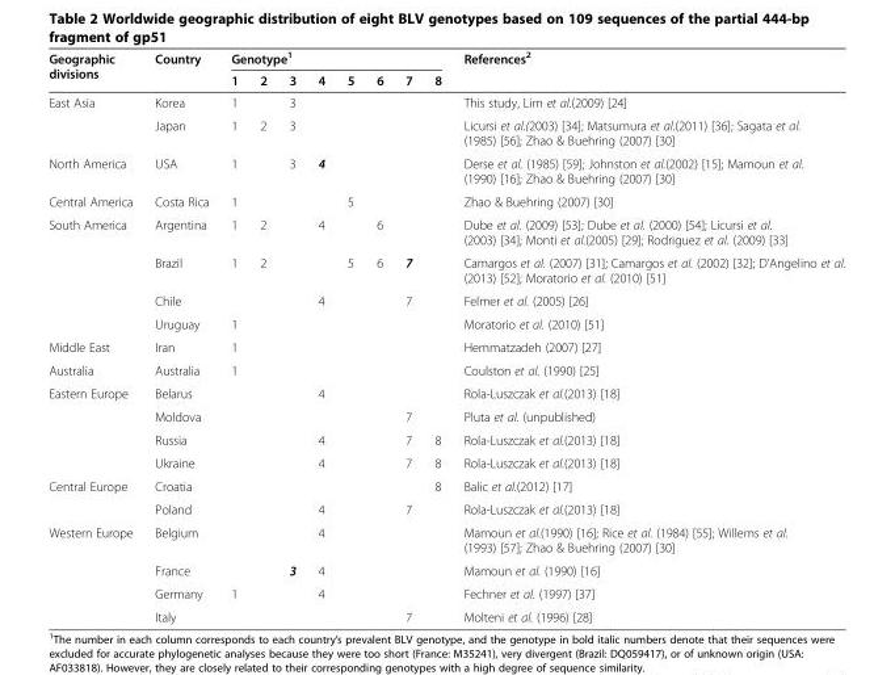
<table><thead><tr><td rowspan="2">Geographic divisions</td><td rowspan="2">Country</td><td colspan="8">Genotype<sup>1</sup></td><td rowspan="2">References<sup>2</sup></td></tr><tr><td>1</td><td>2</td><td>3</td><td>4</td><td>5</td><td>6</td><td>7</td><td>8</td></tr></thead><tbody><tr><td rowspan="2">East Asia</td><td>Korea</td><td>1</td><td></td><td>3</td><td></td><td></td><td></td><td></td><td></td><td>This study, Lim et al.(2009) [24]</td></tr><tr><td>Japan</td><td>1</td><td>2</td><td>3</td><td></td><td></td><td></td><td></td><td></td><td>Licursi et al.(2003) [34]; Matsumura et al.(2011) [36]; Sagata et al. (1985) [56]; Zhao &amp; Buehring (2007) [30]</td></tr><tr><td>North America</td><td>USA</td><td>1</td><td></td><td>3</td><td>4</td><td></td><td></td><td></td><td></td><td>Derse et al. (1985) [59]; Johnston et al.(2002) [15]; Mamoun et al. (1990) [16]; Zhao &amp; Buehring (2007) [30]</td></tr><tr><td>Central America</td><td>Costa Rica</td><td>1</td><td></td><td></td><td></td><td>5</td><td></td><td></td><td></td><td>Zhao &amp; Buehring (2007) [30]</td></tr><tr><td rowspan="4">South America</td><td>Argentina</td><td>1</td><td>2</td><td></td><td>4</td><td></td><td>6</td><td></td><td></td><td>Dube et al. (2009) [53]; Dube et al. (2000) [54]; Licursi et al. (2003) [34]; Monti et al.(2005) [29]; Rodriguez et al. (2009) [33]</td></tr><tr><td>Brazil</td><td>1</td><td>2</td><td></td><td></td><td>5</td><td>6</td><td>7</td><td></td><td>Camargos et al. (2007) [31]; Camargos et al. (2002) [32]; D’Angelino et al. (2013) [52]; Moratorio et al. (2010) [51]</td></tr><tr><td>Chile</td><td></td><td></td><td></td><td>4</td><td></td><td></td><td>7</td><td></td><td>Felmer et al. (2005) [26]</td></tr><tr><td>Uruguay</td><td>1</td><td></td><td></td><td></td><td></td><td></td><td></td><td></td><td>Moratorio et al. (2010) [51]</td></tr><tr><td>Middle East</td><td>Iran</td><td>1</td><td></td><td></td><td></td><td></td><td></td><td></td><td></td><td>Hemmatzadeh (2007) [27]</td></tr><tr><td>Australia</td><td>Australia</td><td>1</td><td></td><td></td><td></td><td></td><td></td><td></td><td></td><td>Coulston et al. (1990) [25]</td></tr><tr><td rowspan="4">Eastern Europe</td><td>Belarus</td><td></td><td></td><td></td><td>4</td><td></td><td></td><td></td><td></td><td>Rola-Luszczak et al.(2013) [18]</td></tr><tr><td>Moldova</td><td></td><td></td><td></td><td></td><td></td><td></td><td>7</td><td></td><td>Pluta et al. (unpublished)</td></tr><tr><td>Russia</td><td></td><td></td><td></td><td>4</td><td></td><td></td><td>7</td><td>8</td><td>Rola-Luszczak et al.(2013) [18]</td></tr><tr><td>Ukraine</td><td></td><td></td><td></td><td>4</td><td></td><td></td><td>7</td><td>8</td><td>Rola-Luszczak et al.(2013) [18]</td></tr><tr><td rowspan="2">Central Europe</td><td>Croatia</td><td></td><td></td><td></td><td></td><td></td><td></td><td></td><td>8</td><td>Balic et al.(2012) [17]</td></tr><tr><td>Poland</td><td></td><td></td><td></td><td>4</td><td></td><td></td><td>7</td><td></td><td>Rola-Luszczak et al.(2013) [18]</td></tr><tr><td rowspan="4">Western Europe</td><td>Belgium</td><td></td><td></td><td></td><td>4</td><td></td><td></td><td></td><td></td><td>Mamoun et al.(1990) [16]; Rice et al. (1984) [55]; Willems et al. (1993) [57]; Zhao &amp; Buehring (2007) [30]</td></tr><tr><td>France</td><td></td><td></td><td>3</td><td>4</td><td></td><td></td><td></td><td></td><td>Mamoun et al. (1990) [16]</td></tr><tr><td>Germany</td><td>1</td><td></td><td></td><td>4</td><td></td><td></td><td></td><td></td><td>Fechner et al. (1997) [37]</td></tr><tr><td>Italy</td><td></td><td></td><td></td><td></td><td></td><td></td><td>7</td><td></td><td>Molteni et al. (1996) [28]</td></tr></tbody></table>